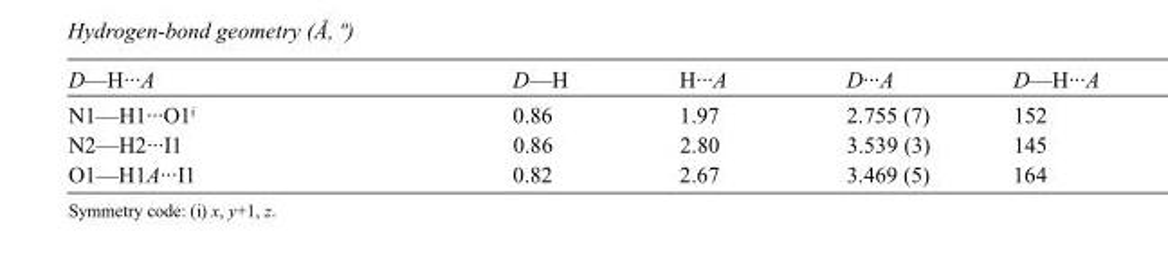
<table><tbody><tr><td>D—H···A</td><td>D—H</td><td>H···A</td><td>D···A</td><td>D—H···A</td></tr><tr><td>N1—H1···O1<sup>i</sup></td><td>0.86</td><td>1.97</td><td>2.755 (7)</td><td>152</td></tr><tr><td>N2—H2···I1</td><td>0.86</td><td>2.80</td><td>3.539 (3)</td><td>145</td></tr><tr><td>O1—H1A···I1</td><td>0.82</td><td>2.67</td><td>3.469 (5)</td><td>164</td></tr></tbody></table>